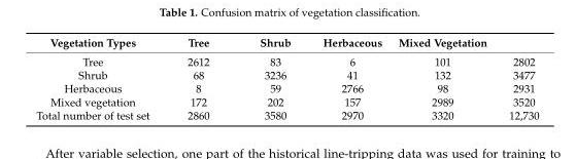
<table><thead><tr><td>Vegetation Types</td><td>Tree</td><td>Shrub</td><td>Herbaceous</td><td>Mixed Vegetation</td><td></td></tr></thead><tbody><tr><td>Tree</td><td>2612</td><td>83</td><td>6</td><td>101</td><td>2802</td></tr><tr><td>Shrub</td><td>68</td><td>3236</td><td>41</td><td>132</td><td>3477</td></tr><tr><td>Herbaceous</td><td>8</td><td>59</td><td>2766</td><td>98</td><td>2931</td></tr><tr><td>Mixed vegetation</td><td>172</td><td>202</td><td>157</td><td>2989</td><td>3520</td></tr><tr><td>Total number of test set</td><td>2860</td><td>3580</td><td>2970</td><td>3320</td><td>12,730</td></tr></tbody></table>